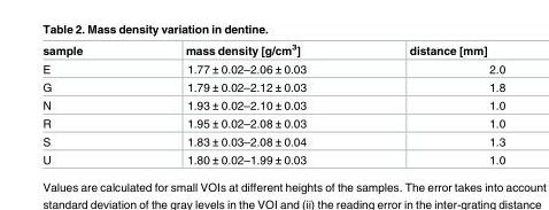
<table><thead><tr><td>sample</td><td>mass density [g/cm<sup>3</sup>]</td><td>distance [mm]</td></tr></thead><tbody><tr><td>E</td><td>1.77 ± 0.02–2.06 ± 0.03</td><td>2.0</td></tr><tr><td>G</td><td>1.79 ± 0.02–2.12 ± 0.03</td><td>1.8</td></tr><tr><td>N</td><td>1.93 ± 0.02–2.10 ± 0.03</td><td>1.0</td></tr><tr><td>R</td><td>1.95 ± 0.02–2.08 ± 0.03</td><td>1.0</td></tr><tr><td>S</td><td>1.83 ± 0.03–2.08 ± 0.04</td><td>1.3</td></tr><tr><td>U</td><td>1.80 ± 0.02–1.99 ± 0.03</td><td>1.0</td></tr></tbody></table>